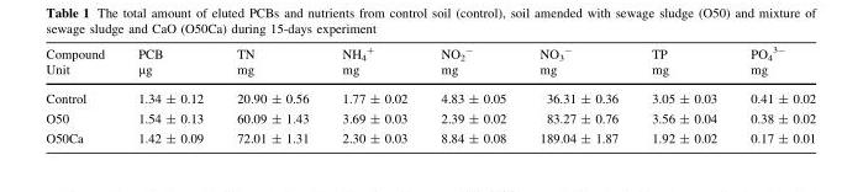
<table><thead><tr><td>Compound Unit</td><td>PCB µg</td><td>TN mg</td><td>NH<sub>4</sub> <sup>+</sup> mg</td><td>NO<sub>2</sub> <sup>-</sup> mg</td><td>NO<sub>3</sub> <sup>-</sup> mg</td><td>TP mg</td><td>PO<sub>4</sub> <sup>3-</sup> mg</td></tr></thead><tbody><tr><td>Control</td><td>1.34 ± 0.12</td><td>20.90 ± 0.56</td><td>1.77 ± 0.02</td><td>4.83 ± 0.05</td><td>36.31 ± 0.36</td><td>3.05 ± 0.03</td><td>0.41 ± 0.02</td></tr><tr><td>O50</td><td>1.54 ± 0.13</td><td>60.09 ± 1.43</td><td>3.69 ± 0.03</td><td>2.39 ± 0.02</td><td>83.27 ± 0.76</td><td>3.56 ± 0.04</td><td>0.38 ± 0.02</td></tr><tr><td>O50Ca</td><td>1.42 ± 0.09</td><td>72.01 ± 1.31</td><td>2.30 ± 0.03</td><td>8.84 ± 0.08</td><td>189.04 ± 1.87</td><td>1.92 ± 0.02</td><td>0.17 ± 0.01</td></tr></tbody></table>